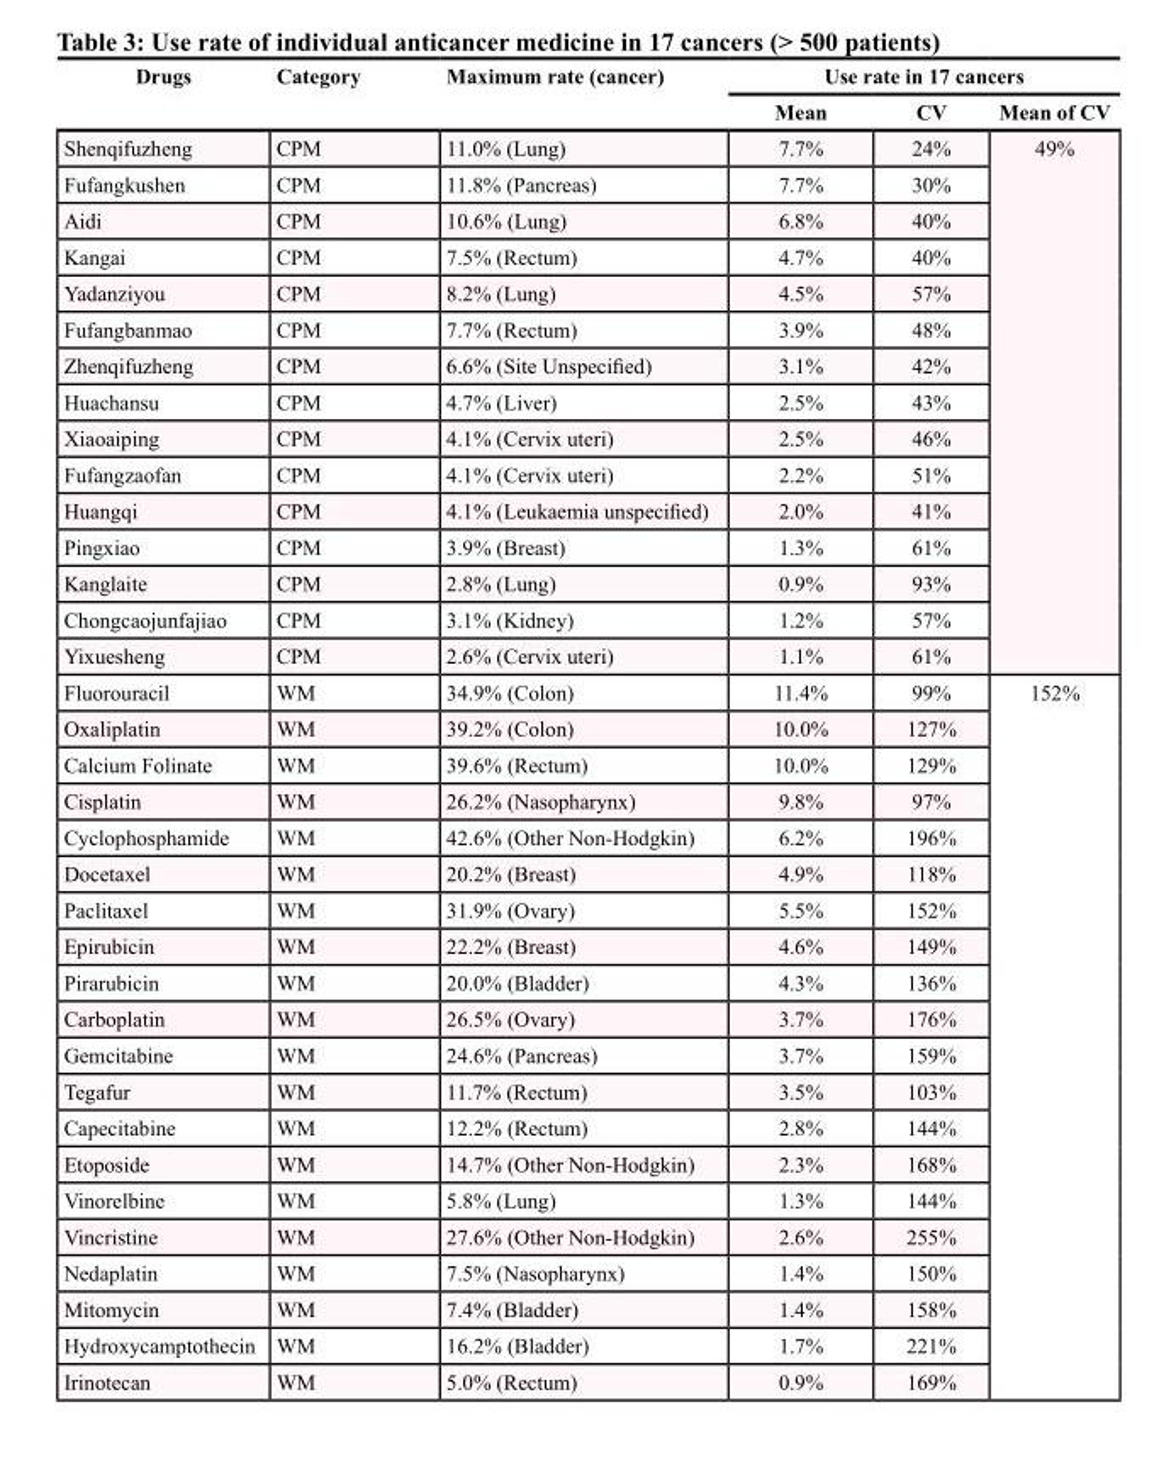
<table><thead><tr><td rowspan="2">Drugs</td><td rowspan="2">Category</td><td rowspan="2">Maximum rate (cancer)</td><td colspan="3">Use rate in 17 cancers</td></tr><tr><td>Mean</td><td>CV</td><td>Mean of CV</td></tr></thead><tbody><tr><td>Shenqifuzheng</td><td>CPM</td><td>11.0% (Lung)</td><td>7.7%</td><td>24%</td><td rowspan="15">49%</td></tr><tr><td>Fufangkushen</td><td>CPM</td><td>11.8% (Pancreas)</td><td>7.7%</td><td>30%</td></tr><tr><td>Aidi</td><td>CPM</td><td>10.6% (Lung)</td><td>6.8%</td><td>40%</td></tr><tr><td>Kangai</td><td>CPM</td><td>7.5% (Rectum)</td><td>4.7%</td><td>40%</td></tr><tr><td>Yadanziyou</td><td>CPM</td><td>8.2% (Lung)</td><td>4.5%</td><td>57%</td></tr><tr><td>Fufangbanmao</td><td>CPM</td><td>7.7% (Rectum)</td><td>3.9%</td><td>48%</td></tr><tr><td>Zhenqifuzheng</td><td>CPM</td><td>6.6% (Site Unspecified)</td><td>3.1%</td><td>42%</td></tr><tr><td>Huachansu</td><td>CPM</td><td>4.7% (Liver)</td><td>2.5%</td><td>43%</td></tr><tr><td>Xiaoaiping</td><td>CPM</td><td>4.1% (Cervix uteri)</td><td>2.5%</td><td>46%</td></tr><tr><td>Fufangzaofan</td><td>CPM</td><td>4.1% (Cervix uteri)</td><td>2.2%</td><td>51%</td></tr><tr><td>Huangqi</td><td>CPM</td><td>4.1% (Leukaemia unspecified)</td><td>2.0%</td><td>41%</td></tr><tr><td>Pingxiao</td><td>CPM</td><td>3.9% (Breast)</td><td>1.3%</td><td>61%</td></tr><tr><td>Kanglaite</td><td>CPM</td><td>2.8% (Lung)</td><td>0.9%</td><td>93%</td></tr><tr><td>Chongcaojunfajiao</td><td>CPM</td><td>3.1% (Kidney)</td><td>1.2%</td><td>57%</td></tr><tr><td>Yixuesheng</td><td>CPM</td><td>2.6% (Cervix uteri)</td><td>1.1%</td><td>61%</td></tr><tr><td>Fluorouracil</td><td>WM</td><td>34.9% (Colon)</td><td>11.4%</td><td>99%</td><td rowspan="20">152%</td></tr><tr><td>Oxaliplatin</td><td>WM</td><td>39.2% (Colon)</td><td>10.0%</td><td>127%</td></tr><tr><td>Calcium Folinate</td><td>WM</td><td>39.6% (Rectum)</td><td>10.0%</td><td>129%</td></tr><tr><td>Cisplatin</td><td>WM</td><td>26.2% (Nasopharynx)</td><td>9.8%</td><td>97%</td></tr><tr><td>Cyclophosphamide</td><td>WM</td><td>42.6% (Other Non-Hodgkin)</td><td>6.2%</td><td>196%</td></tr><tr><td>Docetaxel</td><td>WM</td><td>20.2% (Breast)</td><td>4.9%</td><td>118%</td></tr><tr><td>Paclitaxel</td><td>WM</td><td>31.9% (Ovary)</td><td>5.5%</td><td>152%</td></tr><tr><td>Epirubicin</td><td>WM</td><td>22.2% (Breast)</td><td>4.6%</td><td>149%</td></tr><tr><td>Pirarubicin</td><td>WM</td><td>20.0% (Bladder)</td><td>4.3%</td><td>136%</td></tr><tr><td>Carboplatin</td><td>WM</td><td>26.5% (Ovary)</td><td>3.7%</td><td>176%</td></tr><tr><td>Gemcitabine</td><td>WM</td><td>24.6% (Pancreas)</td><td>3.7%</td><td>159%</td></tr><tr><td>Tegafur</td><td>WM</td><td>11.7% (Rectum)</td><td>3.5%</td><td>103%</td></tr><tr><td>Capecitabine</td><td>WM</td><td>12.2% (Rectum)</td><td>2.8%</td><td>144%</td></tr><tr><td>Etoposide</td><td>WM</td><td>14.7% (Other Non-Hodgkin)</td><td>2.3%</td><td>168%</td></tr><tr><td>Vinorelbine</td><td>WM</td><td>5.8% (Lung)</td><td>1.3%</td><td>144%</td></tr><tr><td>Vincristine</td><td>WM</td><td>27.6% (Other Non-Hodgkin)</td><td>2.6%</td><td>255%</td></tr><tr><td>Nedaplatin</td><td>WM</td><td>7.5% (Nasopharynx)</td><td>1.4%</td><td>150%</td></tr><tr><td>Mitomycin</td><td>WM</td><td>7.4% (Bladder)</td><td>1.4%</td><td>158%</td></tr><tr><td>Hydroxycamptothecin</td><td>WM</td><td>16.2% (Bladder)</td><td>1.7%</td><td>221%</td></tr><tr><td>Irinotecan</td><td>WM</td><td>5.0% (Rectum)</td><td>0.9%</td><td>169%</td></tr></tbody></table>